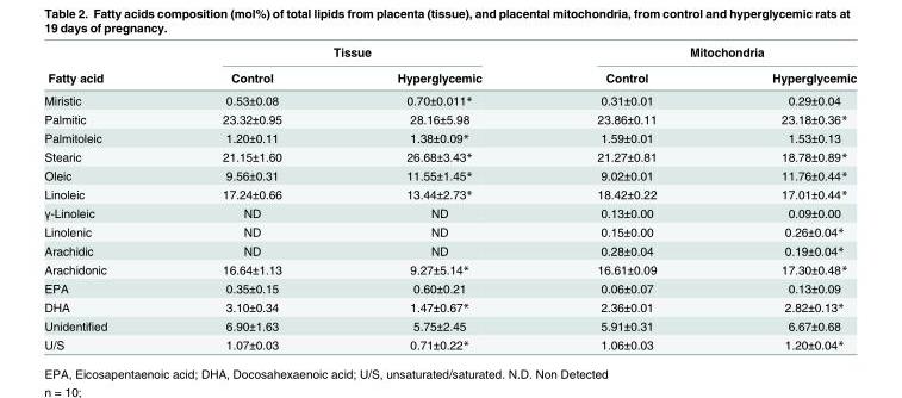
<table><thead><tr><td rowspan="2">Fatty acid</td><td colspan="2">Tissue</td><td colspan="2">Mitochondria</td></tr><tr><td>Control</td><td>Hyperglycemic</td><td>Control</td><td>Hyperglycemic</td></tr></thead><tbody><tr><td>Miristic</td><td>0.53±0.08</td><td>0.70±0.011*</td><td>0.31±0.01</td><td>0.29±0.04</td></tr><tr><td>Palmitic</td><td>23.32±0.95</td><td>28.16±5.98</td><td>23.86±0.11</td><td>23.18±0.36*</td></tr><tr><td>Palmitoleic</td><td>1.20±0.11</td><td>1.38±0.09*</td><td>1.59±0.01</td><td>1.53±0.13</td></tr><tr><td>Stearic</td><td>21.15±1.60</td><td>26.68±3.43*</td><td>21.27±0.81</td><td>18.78±0.89*</td></tr><tr><td>Oleic</td><td>9.56±0.31</td><td>11.55±1.45*</td><td>9.02±0.01</td><td>11.76±0.44*</td></tr><tr><td>Linoleic</td><td>17.24±0.66</td><td>13.44±2.73*</td><td>18.42±0.22</td><td>17.01±0.44*</td></tr><tr><td>γ-Linoleic</td><td>ND</td><td>ND</td><td>0.13±0.00</td><td>0.09±0.00</td></tr><tr><td>Linolenic</td><td>ND</td><td>ND</td><td>0.15±0.00</td><td>0.26±0.04*</td></tr><tr><td>Arachidic</td><td>ND</td><td>ND</td><td>0.28±0.04</td><td>0.19±0.04*</td></tr><tr><td>Arachidonic</td><td>16.64±1.13</td><td>9.27±5.14*</td><td>16.61±0.09</td><td>17.30±0.48*</td></tr><tr><td>EPA</td><td>0.35±0.15</td><td>0.60±0.21</td><td>0.06±0.07</td><td>0.13±0.09</td></tr><tr><td>DHA</td><td>3.10±0.34</td><td>1.47±0.67*</td><td>2.36±0.01</td><td>2.82±0.13*</td></tr><tr><td>Unidentified</td><td>6.90±1.63</td><td>5.75±2.45</td><td>5.91±0.31</td><td>6.67±0.68</td></tr><tr><td>U/S</td><td>1.07±0.03</td><td>0.71±0.22*</td><td>1.06±0.03</td><td>1.20±0.04*</td></tr></tbody></table>